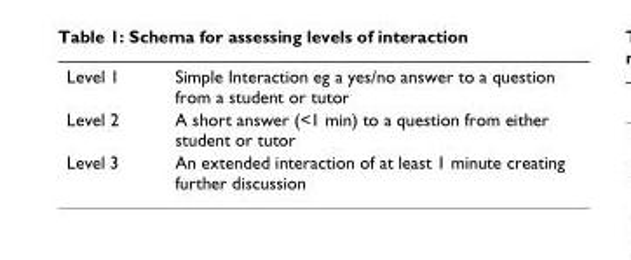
<table><tbody><tr><td>Level 1</td><td>Simple Interaction eg a yes/no answer to a question from a student or tutor</td></tr><tr><td>Level 2</td><td>A short answer (&lt;1 min) to a question from either student or tutor</td></tr><tr><td>Level 3</td><td>An extended interaction of at least 1 minute creating further discussion</td></tr></tbody></table>